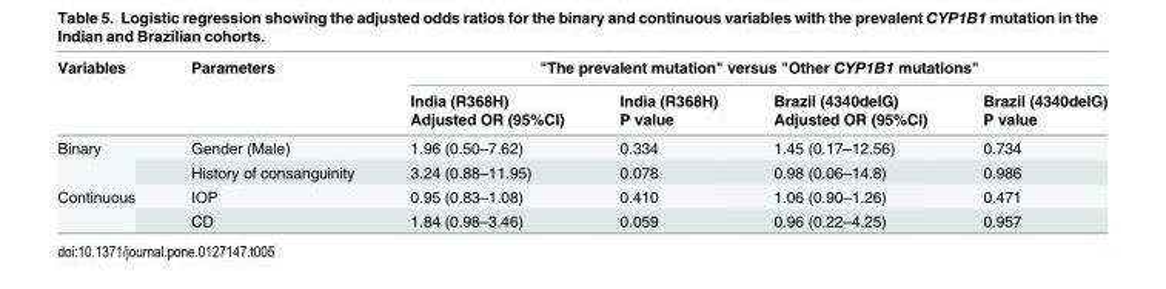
<table><thead><tr><td rowspan="3">Variables</td><td rowspan="3">Parameters</td><td colspan="4">&quot;The prevalent mutation&quot; versus &quot;Other CYP1B1 mutations&quot;</td></tr><tr><td rowspan="2">India (R368H) Adjusted OR (95%CI)</td><td rowspan="2">India (R368H) P value</td><td rowspan="2">Brazil (4340delG) Adjusted OR (95%CI)</td><td rowspan="2">Brazil (4340delG) P value</td></tr><tr></tr></thead><tbody><tr><td rowspan="2">Binary</td><td>Gender (Male)</td><td>1.96 (0.50–7.62)</td><td>0.334</td><td>1.45 (0.17–12.56)</td><td>0.734</td></tr><tr><td>History of consanguinity</td><td>3.24 (0.88–11.95)</td><td>0.078</td><td>0.98 (0.06–14.8)</td><td>0.986</td></tr><tr><td rowspan="2">Continuous</td><td>IOP</td><td>0.95 (0.83–1.08)</td><td>0.410</td><td>1.06 (0.90–1.26)</td><td>0.471</td></tr><tr><td>CD</td><td>1.84 (0.98–3.46)</td><td>0.059</td><td>0.96 (0.22–4.25)</td><td>0.957</td></tr></tbody></table>